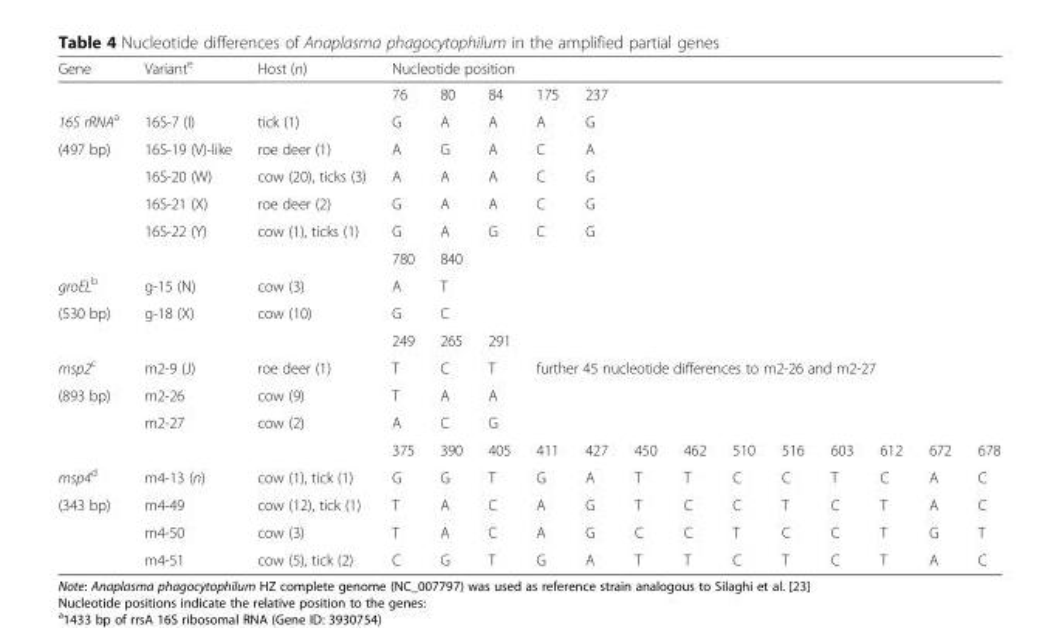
<table><thead><tr><td rowspan="2">Gene</td><td rowspan="2">Variant<sup>e</sup></td><td rowspan="2">Host (n)</td><td colspan="12">Nucleotide position</td><td rowspan="2"></td></tr><tr><td>76</td><td>80</td><td>84</td><td>175</td><td>237</td><td></td><td></td><td></td><td></td><td></td><td></td><td></td></tr></thead><tbody><tr><td>16S rRNA<sup>a</sup></td><td>16S-7 (I)</td><td>tick (1)</td><td>G</td><td>A</td><td>A</td><td>A</td><td>G</td><td></td><td></td><td></td><td></td><td></td><td></td><td></td><td></td></tr><tr><td rowspan="5">(497 bp)</td><td>16S-19 (V)-like</td><td>roe deer (1)</td><td>A</td><td>G</td><td>A</td><td>C</td><td>A</td><td></td><td></td><td></td><td></td><td></td><td></td><td></td><td></td></tr><tr><td>16S-20 (W)</td><td>cow (20), ticks (3)</td><td>A</td><td>A</td><td>A</td><td>C</td><td>G</td><td></td><td></td><td></td><td></td><td></td><td></td><td></td><td></td></tr><tr><td>16S-21 (X)</td><td>roe deer (2)</td><td>G</td><td>A</td><td>A</td><td>C</td><td>G</td><td></td><td></td><td></td><td></td><td></td><td></td><td></td><td></td></tr><tr><td>16S-22 (Y)</td><td>cow (1), ticks (1)</td><td>G</td><td>A</td><td>G</td><td>C</td><td>G</td><td></td><td></td><td></td><td></td><td></td><td></td><td></td><td></td></tr><tr><td></td><td></td><td>780</td><td>840</td><td></td><td></td><td></td><td></td><td></td><td></td><td></td><td></td><td></td><td></td><td></td></tr><tr><td>groEL<sup>b</sup></td><td>g-15 (N)</td><td>cow (3)</td><td>A</td><td>T</td><td></td><td></td><td></td><td></td><td></td><td></td><td></td><td></td><td></td><td></td><td></td></tr><tr><td rowspan="2">(530 bp)</td><td>g-18 (X)</td><td>cow (10)</td><td>G</td><td>C</td><td></td><td></td><td></td><td></td><td></td><td></td><td></td><td></td><td></td><td></td><td></td></tr><tr><td></td><td></td><td>249</td><td>265</td><td>291</td><td></td><td></td><td></td><td></td><td></td><td></td><td></td><td></td><td></td><td></td></tr><tr><td>msp2<sup>c</sup></td><td>m2-9 (J)</td><td>roe deer (1)</td><td>T</td><td>C</td><td>T</td><td colspan="10">further 45 nucleotide differences to m2-26 and m2-27</td></tr><tr><td rowspan="3">(893 bp)</td><td>m2-26</td><td>cow (9)</td><td>T</td><td>A</td><td>A</td><td></td><td></td><td></td><td></td><td></td><td></td><td></td><td></td><td></td><td></td></tr><tr><td>m2-27</td><td>cow (2)</td><td>A</td><td>C</td><td>G</td><td></td><td></td><td></td><td></td><td></td><td></td><td></td><td></td><td></td><td></td></tr><tr><td></td><td></td><td>375</td><td>390</td><td>405</td><td>411</td><td>427</td><td>450</td><td>462</td><td>510</td><td>516</td><td>603</td><td>612</td><td>672</td><td>678</td></tr><tr><td>msp4<sup>d</sup></td><td>m4-13 (n)</td><td>cow (1), tick (1)</td><td>G</td><td>G</td><td>T</td><td>G</td><td>A</td><td>T</td><td>T</td><td>C</td><td>C</td><td>T</td><td>C</td><td>A</td><td>C</td></tr><tr><td rowspan="3">(343 bp)</td><td>m4-49</td><td>cow (12), tick (1)</td><td>T</td><td>A</td><td>C</td><td>A</td><td>G</td><td>T</td><td>C</td><td>C</td><td>T</td><td>C</td><td>T</td><td>A</td><td>C</td></tr><tr><td>m4-50</td><td>cow (3)</td><td>T</td><td>A</td><td>C</td><td>A</td><td>G</td><td>C</td><td>C</td><td>T</td><td>C</td><td>C</td><td>T</td><td>G</td><td>T</td></tr><tr><td>m4-51</td><td>cow (5), tick (2)</td><td>C</td><td>G</td><td>T</td><td>G</td><td>A</td><td>T</td><td>T</td><td>C</td><td>T</td><td>C</td><td>T</td><td>A</td><td>C</td></tr></tbody></table>